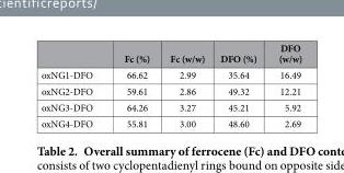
<table><thead><tr><td></td><td>Fc (%)</td><td>Fc (w/w)</td><td>DFO (%)</td><td>DFO (w/w)</td></tr></thead><tbody><tr><td>oxNG1-DFO</td><td>66.62</td><td>2.99</td><td>35.64</td><td>16.49</td></tr><tr><td>oxNG2-DFO</td><td>59.61</td><td>2.86</td><td>49.32</td><td>12.21</td></tr><tr><td>oxNG3-DFO</td><td>64.26</td><td>3.27</td><td>45.21</td><td>5.92</td></tr><tr><td>oxNG4-DFO</td><td>55.81</td><td>3.00</td><td>48.60</td><td>2.69</td></tr></tbody></table>